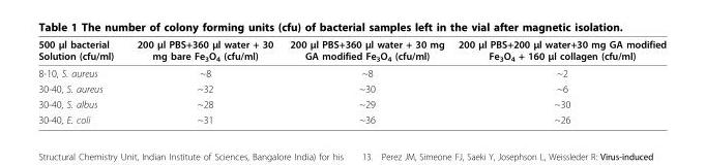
<table><thead><tr><td>500 μl bacterial Solution (cfu/ml)</td><td>200 μl PBS+360 μl water + 30 mg bare Fe<sub>3</sub>O<sub>4</sub> (cfu/ml)</td><td>200 μl PBS+360 μl water + 30 mg GA modified Fe<sub>3</sub>O<sub>4</sub> (cfu/ml)</td><td>200 μl PBS+200 μl water+30 mg GA modified Fe<sub>3</sub>O<sub>4</sub> + 160 μl collagen (cfu/ml)</td></tr></thead><tbody><tr><td>8-10, S. aureus</td><td>~8</td><td>~8</td><td>~2</td></tr><tr><td>30-40, S. aureus</td><td>~32</td><td>~30</td><td>~6</td></tr><tr><td>30-40, S. albus</td><td>~28</td><td>~29</td><td>~30</td></tr><tr><td>30-40, E. coli</td><td>~31</td><td>~36</td><td>~26</td></tr></tbody></table>